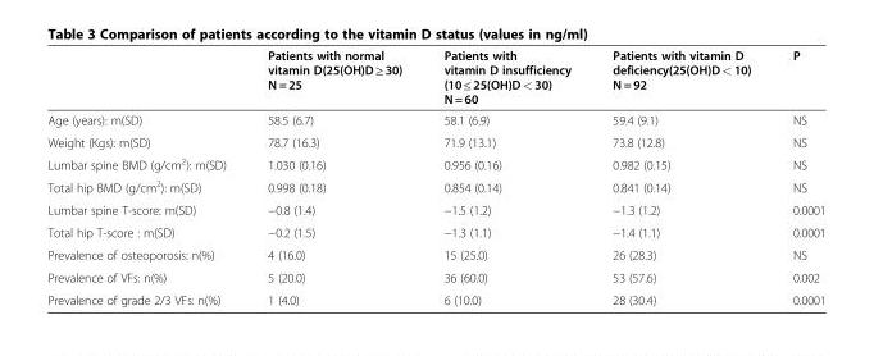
<table><thead><tr><td></td><td>Patients with normal vitamin D(25(OH)D ≥ 30) N = 25</td><td>Patients with vitamin D insufficiency (10 ≤ 25(OH)D &lt; 30) N = 60</td><td>Patients with vitamin D deficiency(25(OH)D &lt; 10) N = 92</td><td>P</td></tr></thead><tbody><tr><td>Age (years): m(SD)</td><td>58.5 (6.7)</td><td>58.1 (6.9)</td><td>59.4 (9.1)</td><td>NS</td></tr><tr><td>Weight (Kgs): m(SD)</td><td>78.7 (16.3)</td><td>71.9 (13.1)</td><td>73.8 (12.8)</td><td>NS</td></tr><tr><td>Lumbar spine BMD (g/cm<sup>2</sup>): m(SD)</td><td>1.030 (0.16)</td><td>0.956 (0.16)</td><td>0.982 (0.15)</td><td>NS</td></tr><tr><td>Total hip BMD (g/cm<sup>2</sup>): m(SD)</td><td>0.998 (0.18)</td><td>0.854 (0.14)</td><td>0.841 (0.14)</td><td>NS</td></tr><tr><td>Lumbar spine T-score: m(SD)</td><td>−0.8 (1.4)</td><td>−1.5 (1.2)</td><td>−1.3 (1.2)</td><td>0.0001</td></tr><tr><td>Total hip T-score : m(SD)</td><td>−0.2 (1.5)</td><td>−1.3 (1.1)</td><td>−1.4 (1.1)</td><td>0.0001</td></tr><tr><td>Prevalence of osteoporosis: n(%)</td><td>4 (16.0)</td><td>15 (25.0)</td><td>26 (28.3)</td><td>NS</td></tr><tr><td>Prevalence of VFs: n(%)</td><td>5 (20.0)</td><td>36 (60.0)</td><td>53 (57.6)</td><td>0.002</td></tr><tr><td>Prevalence of grade 2/3 VFs: n(%)</td><td>1 (4.0)</td><td>6 (10.0)</td><td>28 (30.4)</td><td>0.0001</td></tr></tbody></table>